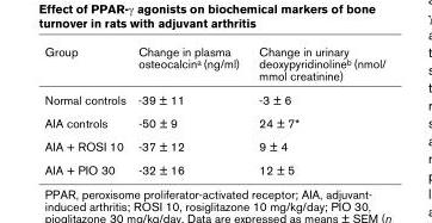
<table><thead><tr><td>Group</td><td>Change in plasma osteocalcin<sup>a</sup> (ng/ml)</td><td>Change in urinary deoxypyridinoline<sup>b</sup> (nmol/ mmol creatinine)</td></tr></thead><tbody><tr><td>Normal controls</td><td>-39 ± 11</td><td>-3 ± 6</td></tr><tr><td>AIA controls</td><td>-50 ± 9</td><td>24 ± 7*</td></tr><tr><td>AIA + ROSI 10</td><td>-37 ± 12</td><td>9 ± 4</td></tr><tr><td>AIA + PIO 30</td><td>-32 ± 16</td><td>12 ± 5</td></tr></tbody></table>